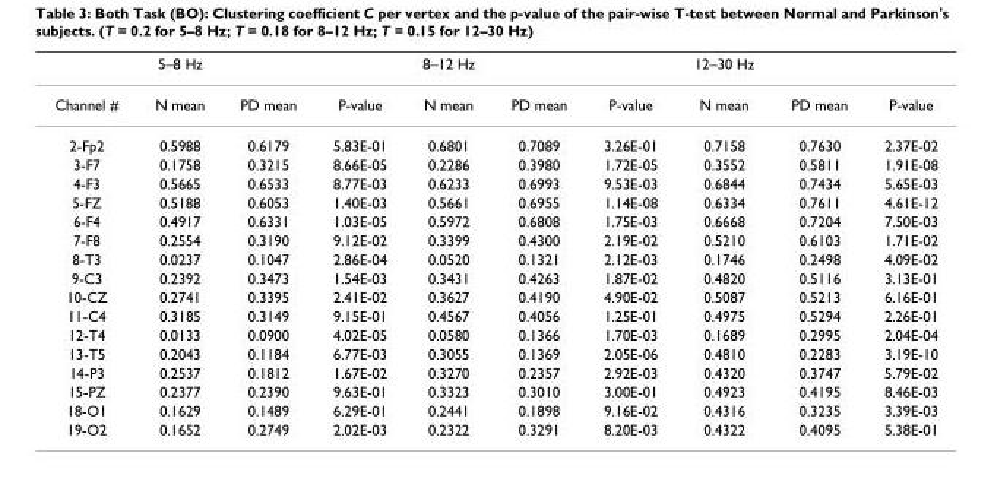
<table><thead><tr><td></td><td>5–8 Hz</td><td></td><td></td><td>8–12 Hz</td><td></td><td></td><td>12–30 Hz</td><td></td><td></td></tr></thead><tbody><tr><td>Channel #</td><td>N mean</td><td>PD mean</td><td>P-value</td><td>N mean</td><td>PD mean</td><td>P-value</td><td>N mean</td><td>PD mean</td><td>P-value</td></tr><tr><td>2-Fp2</td><td>0.5988</td><td>0.6179</td><td>5.83E-01</td><td>0.6801</td><td>0.7089</td><td>3.26E-01</td><td>0.7158</td><td>0.7630</td><td>2.37E-02</td></tr><tr><td>3-F7</td><td>0.1758</td><td>0.3215</td><td>8.66E-05</td><td>0.2286</td><td>0.3980</td><td>1.72E-05</td><td>0.3552</td><td>0.5811</td><td>1.91E-08</td></tr><tr><td>4-F3</td><td>0.5665</td><td>0.6533</td><td>8.77E-03</td><td>0.6233</td><td>0.6993</td><td>9.53E-03</td><td>0.6844</td><td>0.7434</td><td>5.65E-03</td></tr><tr><td>5-FZ</td><td>0.5188</td><td>0.6053</td><td>1.40E-03</td><td>0.5661</td><td>0.6955</td><td>1.14E-08</td><td>0.6334</td><td>0.7611</td><td>4.61E-12</td></tr><tr><td>6-F4</td><td>0.4917</td><td>0.6331</td><td>1.03E-05</td><td>0.5972</td><td>0.6808</td><td>1.75E-03</td><td>0.6668</td><td>0.7204</td><td>7.50E-03</td></tr><tr><td>7-F8</td><td>0.2554</td><td>0.3190</td><td>9.12E-02</td><td>0.3399</td><td>0.4300</td><td>2.19E-02</td><td>0.5210</td><td>0.6103</td><td>1.71E-02</td></tr><tr><td>8-T3</td><td>0.0237</td><td>0.1047</td><td>2.86E-04</td><td>0.0520</td><td>0.1321</td><td>2.12E-03</td><td>0.1746</td><td>0.2498</td><td>4.09E-02</td></tr><tr><td>9-C3</td><td>0.2392</td><td>0.3473</td><td>1.54E-03</td><td>0.3431</td><td>0.4263</td><td>1.87E-02</td><td>0.4820</td><td>0.5116</td><td>3.13E-01</td></tr><tr><td>10-CZ</td><td>0.2741</td><td>0.3395</td><td>2.41E-02</td><td>0.3627</td><td>0.4190</td><td>4.90E-02</td><td>0.5087</td><td>0.5213</td><td>6.16E-01</td></tr><tr><td>11-C4</td><td>0.3185</td><td>0.3149</td><td>9.15E-01</td><td>0.4567</td><td>0.4056</td><td>1.25E-01</td><td>0.4975</td><td>0.5294</td><td>2.26E-01</td></tr><tr><td>12-T4</td><td>0.0133</td><td>0.0900</td><td>4.02E-05</td><td>0.0580</td><td>0.1366</td><td>1.70E-03</td><td>0.1689</td><td>0.2995</td><td>2.04E-04</td></tr><tr><td>13-T5</td><td>0.2043</td><td>0.1184</td><td>6.77E-03</td><td>0.3055</td><td>0.1369</td><td>2.05E-06</td><td>0.4810</td><td>0.2283</td><td>3.19E-10</td></tr><tr><td>14-P3</td><td>0.2537</td><td>0.1812</td><td>1.67E-02</td><td>0.3270</td><td>0.2357</td><td>2.92E-03</td><td>0.4320</td><td>0.3747</td><td>5.79E-02</td></tr><tr><td>15-PZ</td><td>0.2377</td><td>0.2390</td><td>9.63E-01</td><td>0.3323</td><td>0.3010</td><td>3.00E-01</td><td>0.4923</td><td>0.4195</td><td>8.46E-03</td></tr><tr><td>18-O1</td><td>0.1629</td><td>0.1489</td><td>6.29E-01</td><td>0.2441</td><td>0.1898</td><td>9.16E-02</td><td>0.4316</td><td>0.3235</td><td>3.39E-03</td></tr><tr><td>19-O2</td><td>0.1652</td><td>0.2749</td><td>2.02E-03</td><td>0.2322</td><td>0.3291</td><td>8.20E-03</td><td>0.4322</td><td>0.4095</td><td>5.38E-01</td></tr></tbody></table>